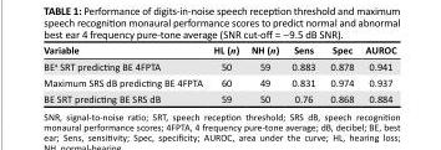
<table><thead><tr><td>Variable</td><td>HL (n)</td><td>NH (n)</td><td>Sens</td><td>Spec</td><td>AUROC</td></tr></thead><tbody><tr><td>BE<sup>a</sup> SRT predicting BE 4FPTA</td><td>50</td><td>59</td><td>0.883</td><td>0.878</td><td>0.941</td></tr><tr><td>Maximum SRS dB predicting BE 4FPTA</td><td>60</td><td>49</td><td>0.831</td><td>0.974</td><td>0.937</td></tr><tr><td>BE SRT predicting BE SRS dB</td><td>59</td><td>50</td><td>0.76</td><td>0.868</td><td>0.884</td></tr></tbody></table>